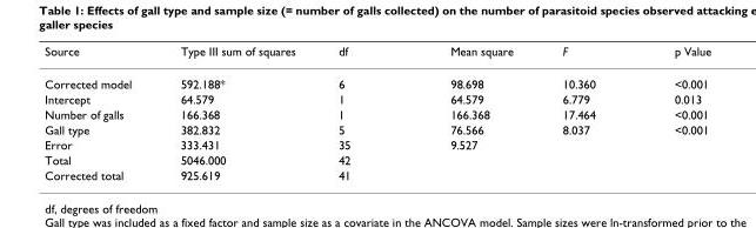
<table><thead><tr><td>Source</td><td>Type III sum of squares</td><td>df</td><td>Mean square</td><td>F</td><td>p Value</td></tr></thead><tbody><tr><td>Corrected model</td><td>592.188*</td><td>6</td><td>98.698</td><td>10.360</td><td>&lt;0.001</td></tr><tr><td>Intercept</td><td>64.579</td><td>1</td><td>64.579</td><td>6.779</td><td>0.013</td></tr><tr><td>Number of galls</td><td>166.368</td><td>1</td><td>166.368</td><td>17.464</td><td>&lt;0.001</td></tr><tr><td>Gall type</td><td>382.832</td><td>5</td><td>76.566</td><td>8.037</td><td>&lt;0.001</td></tr><tr><td>Error</td><td>333.431</td><td>35</td><td>9.527</td><td></td><td></td></tr><tr><td>Total</td><td>5046.000</td><td>42</td><td></td><td></td><td></td></tr><tr><td>Corrected total</td><td>925.619</td><td>41</td><td></td><td></td><td></td></tr></tbody></table>